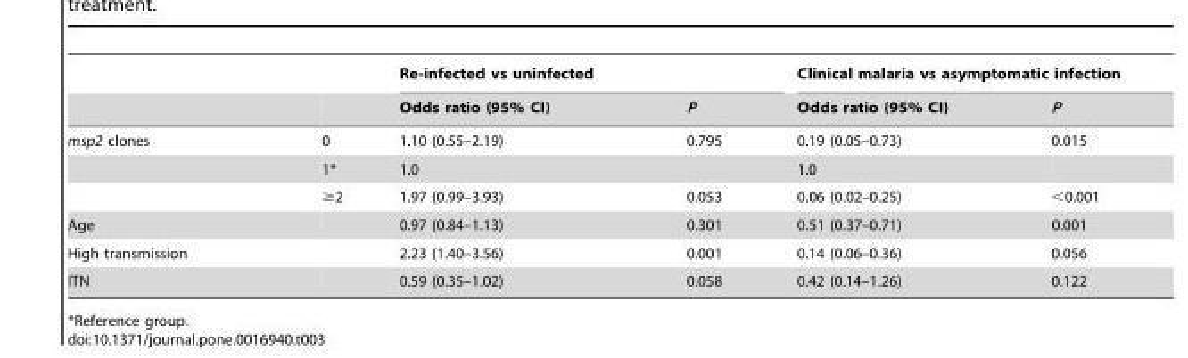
<table><thead><tr><td rowspan="2"></td><td rowspan="2"></td><td colspan="2">Re-infected vs uninfected</td><td colspan="2">Clinical malaria vs asymptomatic infection</td></tr><tr><td>Odds ratio (95% CI)</td><td>P</td><td>Odds ratio (95% CI)</td><td>P</td></tr></thead><tbody><tr><td rowspan="3">msp2 clones</td><td>0</td><td>1.10 (0.55–2.19)</td><td>0.795</td><td>0.19 (0.05–0.73)</td><td>0.015</td></tr><tr><td>1*</td><td>1.0</td><td></td><td>1.0</td><td></td></tr><tr><td>≥2</td><td>1.97 (0.99–3.93)</td><td>0.053</td><td>0.06 (0.02–0.25)</td><td>&lt;0.001</td></tr><tr><td>Age</td><td></td><td>0.97 (0.84–1.13)</td><td>0.301</td><td>0.51 (0.37–0.71)</td><td>0.001</td></tr><tr><td>High transmission</td><td></td><td>2.23 (1.40–3.56)</td><td>0.001</td><td>0.14 (0.06–0.36)</td><td>0.056</td></tr><tr><td>ITN</td><td></td><td>0.59 (0.35–1.02)</td><td>0.058</td><td>0.42 (0.14–1.26)</td><td>0.122</td></tr></tbody></table>